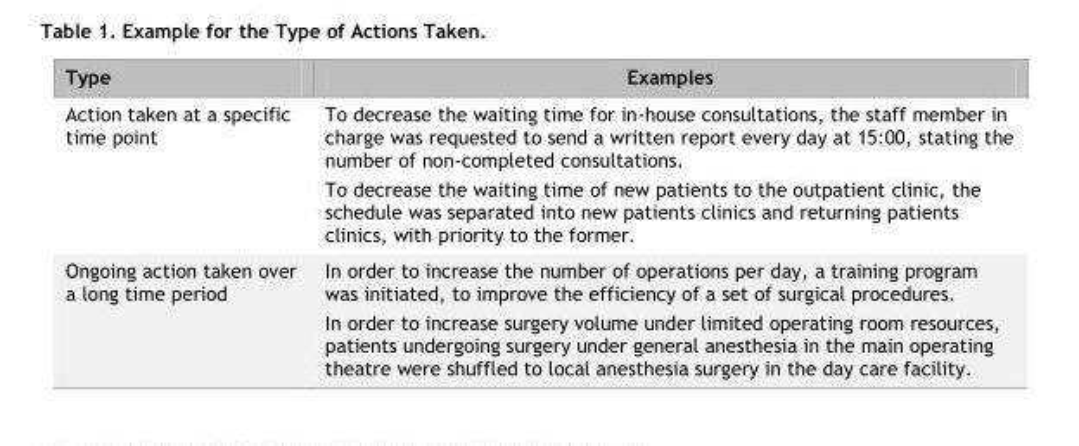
<table><thead><tr><td>Type</td><td>Examples</td></tr></thead><tbody><tr><td>Action taken at a specific time point</td><td>To decrease the waiting time for in-house consultations, the staff member in charge was requested to send a written report every day at 15:00, stating the number of non-completed consultations. To decrease the waiting time of new patients to the outpatient clinic, the schedule was separated into new patients clinics and returning patients clinics, with priority to the former.</td></tr><tr><td>Ongoing action taken over a long time period</td><td>In order to increase the number of operations per day, a training program was initiated, to improve the efficiency of a set of surgical procedures. In order to increase surgery volume under limited operating room resources, patients undergoing surgery under general anesthesia in the main operating theatre were shuffled to local anesthesia surgery in the day care facility.</td></tr></tbody></table>